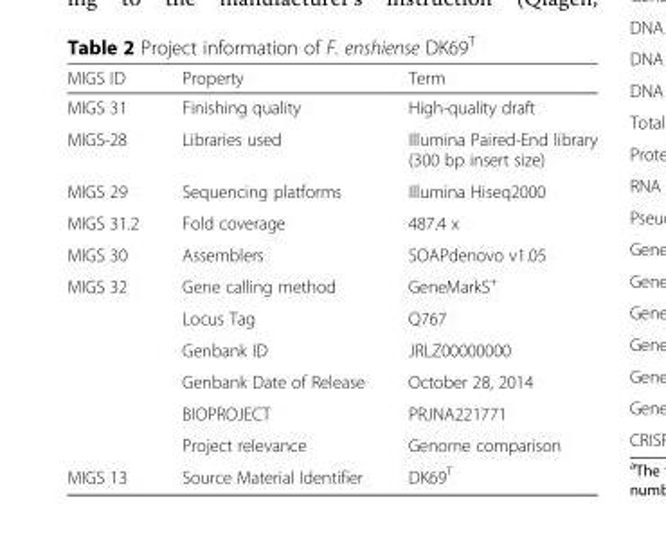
<table><thead><tr><td>MIGS ID</td><td>Property</td><td>Term</td></tr></thead><tbody><tr><td>MIGS 31</td><td>Finishing quality</td><td>High-quality draft</td></tr><tr><td>MIGS-28</td><td>Libraries used</td><td>Illumina Paired-End library (300 bp insert size)</td></tr><tr><td>MIGS 29</td><td>Sequencing platforms</td><td>Illumina Hiseq2000</td></tr><tr><td>MIGS 31.2</td><td>Fold coverage</td><td>487.4 x</td></tr><tr><td>MIGS 30</td><td>Assemblers</td><td>SOAPdenovo v1.05</td></tr><tr><td rowspan="6">MIGS 32</td><td>Gene calling method</td><td>GeneMarkS<sup>+</sup></td></tr><tr><td>Locus Tag</td><td>Q767</td></tr><tr><td>Genbank ID</td><td>JRLZ00000000</td></tr><tr><td>Genbank Date of Release</td><td>October 28, 2014</td></tr><tr><td>BIOPROJECT</td><td>PRJNA221771</td></tr><tr><td>Project relevance</td><td>Genome comparison</td></tr><tr><td>MIGS 13</td><td>Source Material Identifier</td><td>DK69<sup>T</sup></td></tr></tbody></table>